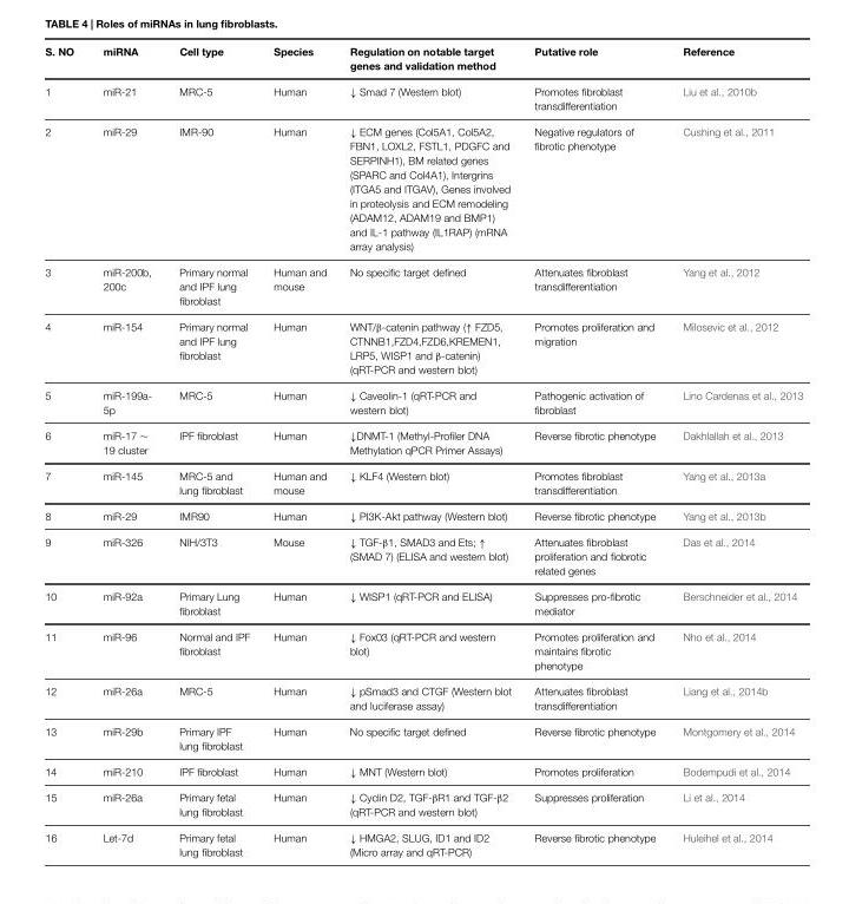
<table><thead><tr><td>S. NO</td><td>miRNA</td><td>Cell type</td><td>Species</td><td>Regulation on notable target genes and validation method</td><td>Putative role</td><td>Reference</td></tr></thead><tbody><tr><td>1</td><td>miR-21</td><td>MRC-5</td><td>Human</td><td>↓ Smad 7 (Western blot)</td><td>Promotes fibroblast transdifferentiation</td><td>Liu et al., 2010b</td></tr><tr><td>2</td><td>miR-29</td><td>IMR-90</td><td>Human</td><td>↓ ECM genes (Col5A1, Col5A2, FBN1, LOXL2, FSTL1, PDGFC and SERPINH1), BM related genes (SPARC and Col4A1), Intergrins (ITGA5 and ITGAV), Genes involved in proteolysis and ECM remodeling (ADAM12, ADAM19 and BMP1) and IL-1 pathway (IL1RAP) (mRNA array analysis)</td><td>Negative regulators of fibrotic phenotype</td><td>Cushing et al., 2011</td></tr><tr><td>3</td><td>miR-200b, 200c</td><td>Primary normal and IPF lung fibroblast</td><td>Human and mouse</td><td>No specific target defined</td><td>Attenuates fibroblast transdifferentiation</td><td>Yang et al., 2012</td></tr><tr><td>4</td><td>miR-154</td><td>Primary normal and IPF lung fibroblast</td><td>Human</td><td>WNT/β-catenin pathway (↑ FZD5, CTNNB1,FZD4,FZD6,KREMEN1, LRP5, WISP1 and β-catenin) (qRT-PCR and western blot)</td><td>Promotes proliferation and migration</td><td>Milosevic et al., 2012</td></tr><tr><td>5</td><td>miR-199a- 5p</td><td>MRC-5</td><td>Human</td><td>↓ Caveolin-1 (qRT-PCR and western blot)</td><td>Pathogenic activation of fibroblast</td><td>Lino Cardenas et al., 2013</td></tr><tr><td>6</td><td>miR-17 ∼ 19 cluster</td><td>IPF fibroblast</td><td>Human</td><td>↓DNMT-1 (Methyl-Profiler DNA Methylation qPCR Primer Assays)</td><td>Reverse fibrotic phenotype</td><td>Dakhlallah et al., 2013</td></tr><tr><td>7</td><td>miR-145</td><td>MRC-5 and lung fibroblast</td><td>Human and mouse</td><td>↓ KLF4 (Western blot)</td><td>Promotes fibroblast transdifferentiation</td><td>Yang et al., 2013a</td></tr><tr><td>8</td><td>miR-29</td><td>IMR90</td><td>Human</td><td>↓ PI3K-Akt pathway (Western blot)</td><td>Reverse fibrotic phenotype</td><td>Yang et al., 2013b</td></tr><tr><td>9</td><td>miR-326</td><td>NIH/3T3</td><td>Mouse</td><td>↓ TGF-β1, SMAD3 and Ets; ↑ (SMAD 7) (ELISA and western blot)</td><td>Attenuates fibroblast proliferation and fiobrotic related genes</td><td>Das et al., 2014</td></tr><tr><td>10</td><td>miR-92a</td><td>Primary Lung fibroblast</td><td>Human</td><td>↓ WISP1 (qRT-PCR and ELISA)</td><td>Suppresses pro-fibrotic mediator</td><td>Berschneider et al., 2014</td></tr><tr><td>11</td><td>miR-96</td><td>Normal and IPF fibroblast</td><td>Human</td><td>↓ Fox03 (qRT-PCR and western blot)</td><td>Promotes proliferation and maintains fibrotic phenotype</td><td>Nho et al., 2014</td></tr><tr><td>12</td><td>miR-26a</td><td>MRC-5</td><td>Human</td><td>↓ pSmad3 and CTGF (Western blot and luciferase assay)</td><td>Attenuates fibroblast transdifferentiation</td><td>Liang et al., 2014b</td></tr><tr><td>13</td><td>miR-29b</td><td>Primary IPF lung fibroblast</td><td>Human</td><td>No specific target defined</td><td>Reverse fibrotic phenotype</td><td>Montgomery et al., 2014</td></tr><tr><td>14</td><td>miR-210</td><td>IPF fibroblast</td><td>Human</td><td>↓ MNT (Western blot)</td><td>Promotes proliferation</td><td>Bodempudi et al., 2014</td></tr><tr><td>15</td><td>miR-26a</td><td>Primary fetal lung fibroblast</td><td>Human</td><td>↓ Cyclin D2, TGF-βR1 and TGF-β2 (qRT-PCR and western blot)</td><td>Suppresses proliferation</td><td>Li et al., 2014</td></tr><tr><td>16</td><td>Let-7d</td><td>Primary fetal lung fibroblast</td><td>Human</td><td>↓ HMGA2, SLUG, ID1 and ID2 (Micro array and qRT-PCR)</td><td>Reverse fibrotic phenotype</td><td>Huleihel et al., 2014</td></tr></tbody></table>